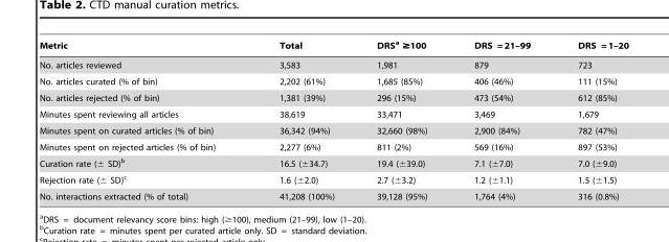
<table><thead><tr><td>Metric</td><td>Total</td><td>DRS<sup>a</sup> ≥100</td><td>DRS = 21–99</td><td>DRS = 1–20</td></tr></thead><tbody><tr><td>No. articles reviewed</td><td>3,583</td><td>1,981</td><td>879</td><td>723</td></tr><tr><td>No. articles curated (% of bin)</td><td>2,202 (61%)</td><td>1,685 (85%)</td><td>406 (46%)</td><td>111 (15%)</td></tr><tr><td>No. articles rejected (% of bin)</td><td>1,381 (39%)</td><td>296 (15%)</td><td>473 (54%)</td><td>612 (85%)</td></tr><tr><td>Minutes spent reviewing all articles</td><td>38,619</td><td>33,471</td><td>3,469</td><td>1,679</td></tr><tr><td>Minutes spent on curated articles (% of bin)</td><td>36,342 (94%)</td><td>32,660 (98%)</td><td>2,900 (84%)</td><td>782 (47%)</td></tr><tr><td>Minutes spent on rejected articles (% of bin)</td><td>2,277 (6%)</td><td>811 (2%)</td><td>569 (16%)</td><td>897 (53%)</td></tr><tr><td>Curation rate (± SD)<sup>b</sup></td><td>16.5 (±34.7)</td><td>19.4 (±39.0)</td><td>7.1 (±7.0)</td><td>7.0 (±9.0)</td></tr><tr><td>Rejection rate (± SD)<sup>c</sup></td><td>1.6 (±2.0)</td><td>2.7 (±3.2)</td><td>1.2 (±1.1)</td><td>1.5 (±1.5)</td></tr><tr><td>No. interactions extracted (% of total)</td><td>41,208 (100%)</td><td>39,128 (95%)</td><td>1,764 (4%)</td><td>316 (0.8%)</td></tr></tbody></table>